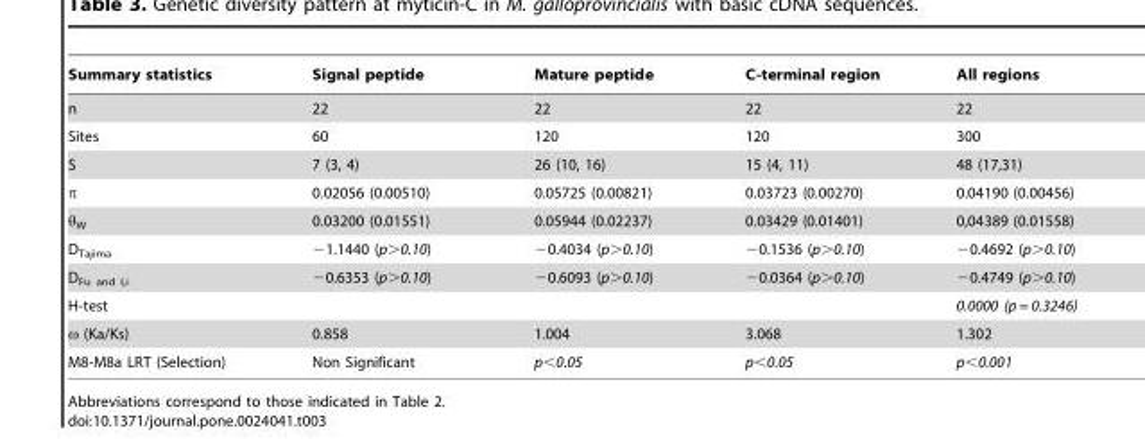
<table><thead><tr><td>Summary statistics</td><td>Signal peptide</td><td>Mature peptide</td><td>C-terminal region</td><td>All regions</td></tr></thead><tbody><tr><td>n</td><td>22</td><td>22</td><td>22</td><td>22</td></tr><tr><td>Sites</td><td>60</td><td>120</td><td>120</td><td>300</td></tr><tr><td>S</td><td>7 (3, 4)</td><td>26 (10, 16)</td><td>15 (4, 11)</td><td>48 (17,31)</td></tr><tr><td>π</td><td>0.02056 (0.00510)</td><td>0.05725 (0.00821)</td><td>0.03723 (0.00270)</td><td>0.04190 (0.00456)</td></tr><tr><td>θ<sub>W</sub></td><td>0.03200 (0.01551)</td><td>0.05944 (0.02237)</td><td>0.03429 (0.01401)</td><td>0,04389 (0.01558)</td></tr><tr><td>D<sub>Tajima</sub></td><td>−1.1440 (p&gt;0.10)</td><td>−0.4034 (p&gt;0.10)</td><td>−0.1536 (p&gt;0.10)</td><td>−0.4692 (p&gt;0.10)</td></tr><tr><td>D<sub>Fu and Li</sub></td><td>−0.6353 (p&gt;0.10)</td><td>−0.6093 (p&gt;0.10)</td><td>−0.0364 (p&gt;0.10)</td><td>−0.4749 (p&gt;0.10)</td></tr><tr><td>H-test</td><td></td><td></td><td></td><td>0.0000 (p = 0.3246)</td></tr><tr><td>ω (Ka/Ks)</td><td>0.858</td><td>1.004</td><td>3.068</td><td>1.302</td></tr><tr><td>M8-M8a LRT (Selection)</td><td>Non Significant</td><td>p&lt;0.05</td><td>p&lt;0.05</td><td>p&lt;0.001</td></tr></tbody></table>